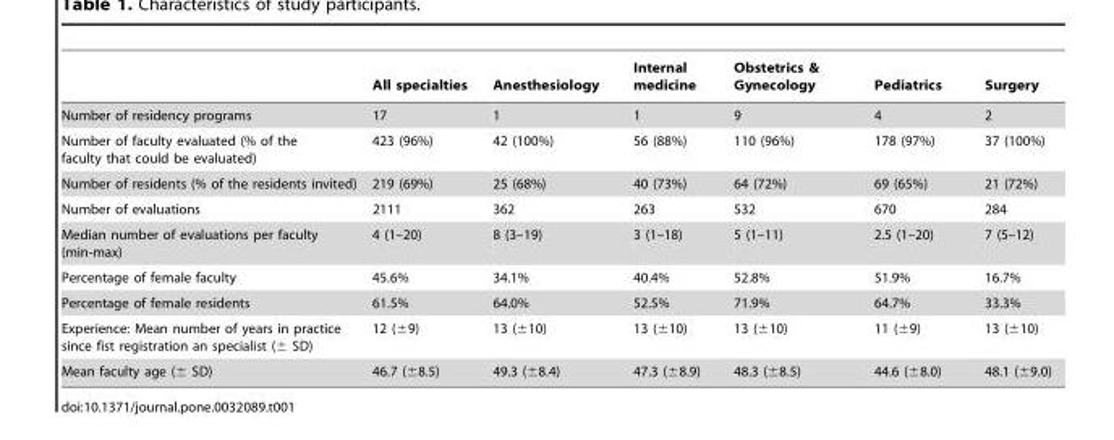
<table><thead><tr><td></td><td>All specialties</td><td>Anesthesiology</td><td>Internal medicine</td><td>Obstetrics &amp; Gynecology</td><td>Pediatrics</td><td>Surgery</td></tr></thead><tbody><tr><td>Number of residency programs</td><td>17</td><td>1</td><td>1</td><td>9</td><td>4</td><td>2</td></tr><tr><td>Number of faculty evaluated (% of the faculty that could be evaluated)</td><td>423 (96%)</td><td>42 (100%)</td><td>56 (88%)</td><td>110 (96%)</td><td>178 (97%)</td><td>37 (100%)</td></tr><tr><td>Number of residents (% of the residents invited)</td><td>219 (69%)</td><td>25 (68%)</td><td>40 (73%)</td><td>64 (72%)</td><td>69 (65%)</td><td>21 (72%)</td></tr><tr><td>Number of evaluations</td><td>2111</td><td>362</td><td>263</td><td>532</td><td>670</td><td>284</td></tr><tr><td>Median number of evaluations per faculty (min-max)</td><td>4 (1–20)</td><td>8 (3–19)</td><td>3 (1–18)</td><td>5 (1–11)</td><td>2.5 (1–20)</td><td>7 (5–12)</td></tr><tr><td>Percentage of female faculty</td><td>45.6%</td><td>34.1%</td><td>40.4%</td><td>52.8%</td><td>51.9%</td><td>16.7%</td></tr><tr><td>Percentage of female residents</td><td>61.5%</td><td>64.0%</td><td>52.5%</td><td>71.9%</td><td>64.7%</td><td>33.3%</td></tr><tr><td>Experience: Mean number of years in practice since fist registration an specialist (± SD)</td><td>12 (±9)</td><td>13 (±10)</td><td>13 (±10)</td><td>13 (±10)</td><td>11 (±9)</td><td>13 (±10)</td></tr><tr><td>Mean faculty age (± SD)</td><td>46.7 (±8.5)</td><td>49.3 (±8.4)</td><td>47.3 (±8.9)</td><td>48.3 (±8.5)</td><td>44.6 (±8.0)</td><td>48.1 (±9.0)</td></tr></tbody></table>